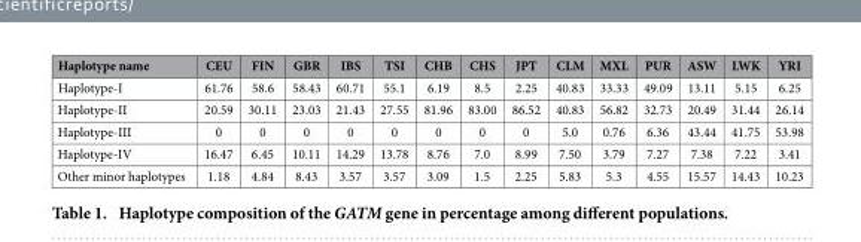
<table><thead><tr><td>Haplotype name</td><td>CEU</td><td>FIN</td><td>GBR</td><td>IBS</td><td>TSI</td><td>CHB</td><td>CHS</td><td>JPT</td><td>CLM</td><td>MXL</td><td>PUR</td><td>ASW</td><td>LWK</td><td>YRI</td></tr></thead><tbody><tr><td>Haplotype-I</td><td>61.76</td><td>58.6</td><td>58.43</td><td>60.71</td><td>55.1</td><td>6.19</td><td>8.5</td><td>2.25</td><td>40.83</td><td>33.33</td><td>49.09</td><td>13.11</td><td>5.15</td><td>6.25</td></tr><tr><td>Haplotype-II</td><td>20.59</td><td>30.11</td><td>23.03</td><td>21.43</td><td>27.55</td><td>81.96</td><td>83.00</td><td>86.52</td><td>40.83</td><td>56.82</td><td>32.73</td><td>20.49</td><td>31.44</td><td>26.14</td></tr><tr><td>Haplotype-III</td><td>0</td><td>0</td><td>0</td><td>0</td><td>0</td><td>0</td><td>0</td><td>0</td><td>5.0</td><td>0.76</td><td>6.36</td><td>43.44</td><td>41.75</td><td>53.98</td></tr><tr><td>Haplotype-IV</td><td>16.47</td><td>6.45</td><td>10.11</td><td>14.29</td><td>13.78</td><td>8.76</td><td>7.0</td><td>8.99</td><td>7.50</td><td>3.79</td><td>7.27</td><td>7.38</td><td>7.22</td><td>3.41</td></tr><tr><td>Other minor haplotypes</td><td>1.18</td><td>4.84</td><td>8.43</td><td>3.57</td><td>3.57</td><td>3.09</td><td>1.5</td><td>2.25</td><td>5.83</td><td>5.3</td><td>4.55</td><td>15.57</td><td>14.43</td><td>10.23</td></tr></tbody></table>